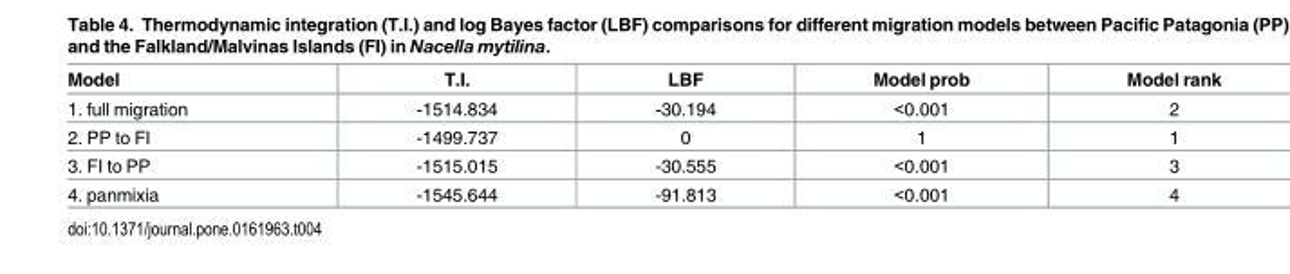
<table><thead><tr><td>Model</td><td>T.I.</td><td>LBF</td><td>Model prob</td><td>Model rank</td></tr></thead><tbody><tr><td>1. full migration</td><td>-1514.834</td><td>-30.194</td><td>&lt;0.001</td><td>2</td></tr><tr><td>2. PP to FI</td><td>-1499.737</td><td>0</td><td>1</td><td>1</td></tr><tr><td>3. FI to PP</td><td>-1515.015</td><td>-30.555</td><td>&lt;0.001</td><td>3</td></tr><tr><td>4. panmixia</td><td>-1545.644</td><td>-91.813</td><td>&lt;0.001</td><td>4</td></tr></tbody></table>